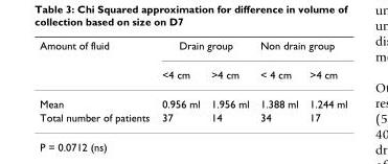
<table><thead><tr><td rowspan="2">Amount of fluid</td><td colspan="2">Drain group</td><td colspan="2">Non drain group</td></tr><tr><td>&lt;4 cm</td><td>&gt;4 cm</td><td>&lt; 4 cm</td><td>&gt;4 cm</td></tr></thead><tbody><tr><td>Mean</td><td>0.956 ml</td><td>1.956 ml</td><td>1.388 ml</td><td>1.244 ml</td></tr><tr><td>Total number of patients</td><td>37</td><td>14</td><td>34</td><td>17</td></tr></tbody></table>